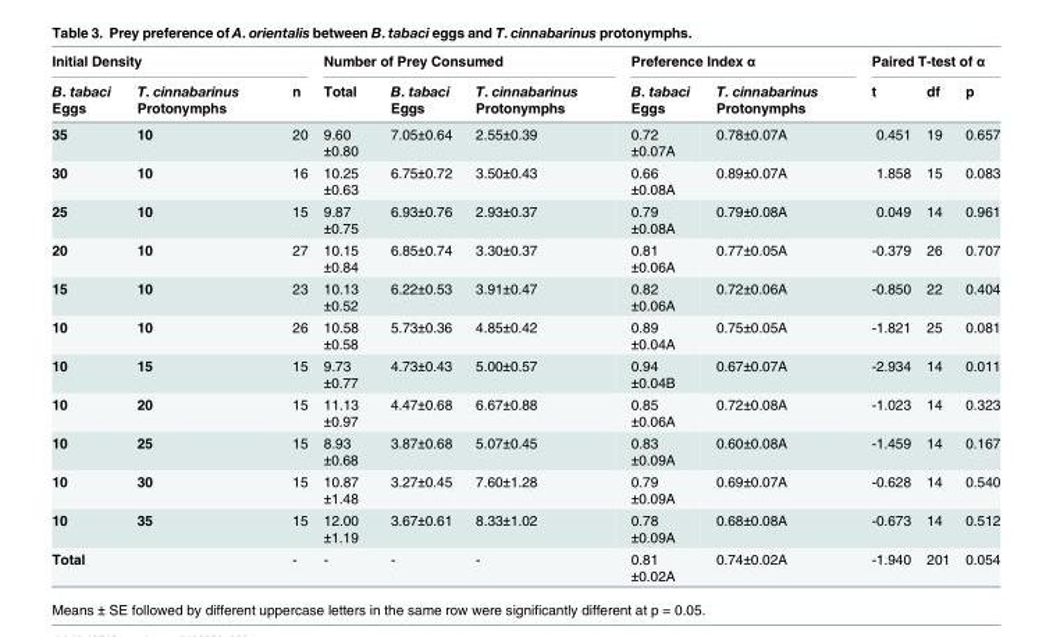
<table><thead><tr><td colspan="3">Initial Density</td><td colspan="3">Number of Prey Consumed</td><td colspan="2">Preference Index α</td><td colspan="3">Paired T-test of α</td></tr><tr><td>B. tabaci Eggs</td><td>T. cinnabarinus Protonymphs</td><td>n</td><td>Total</td><td>B. tabaci Eggs</td><td>T. cinnabarinus Protonymphs</td><td>B. tabaci Eggs</td><td>T. cinnabarinus Protonymphs</td><td>t</td><td>df</td><td>p</td></tr></thead><tbody><tr><td>35</td><td>10</td><td>20</td><td>9.60 ±0.80</td><td>7.05±0.64</td><td>2.55±0.39</td><td>0.72 ±0.07A</td><td>0.78±0.07A</td><td>0.451</td><td>19</td><td>0.657</td></tr><tr><td>30</td><td>10</td><td>16</td><td>10.25 ±0.63</td><td>6.75±0.72</td><td>3.50±0.43</td><td>0.66 ±0.08A</td><td>0.89±0.07A</td><td>1.858</td><td>15</td><td>0.083</td></tr><tr><td>25</td><td>10</td><td>15</td><td>9.87 ±0.75</td><td>6.93±0.76</td><td>2.93±0.37</td><td>0.79 ±0.08A</td><td>0.79±0.08A</td><td>0.049</td><td>14</td><td>0.961</td></tr><tr><td>20</td><td>10</td><td>27</td><td>10.15 ±0.84</td><td>6.85±0.74</td><td>3.30±0.37</td><td>0.81 ±0.06A</td><td>0.77±0.05A</td><td>-0.379</td><td>26</td><td>0.707</td></tr><tr><td>15</td><td>10</td><td>23</td><td>10.13 ±0.52</td><td>6.22±0.53</td><td>3.91±0.47</td><td>0.82 ±0.06A</td><td>0.72±0.06A</td><td>-0.850</td><td>22</td><td>0.404</td></tr><tr><td>10</td><td>10</td><td>26</td><td>10.58 ±0.58</td><td>5.73±0.36</td><td>4.85±0.42</td><td>0.89 ±0.04A</td><td>0.75±0.05A</td><td>-1.821</td><td>25</td><td>0.081</td></tr><tr><td>10</td><td>15</td><td>15</td><td>9.73 ±0.77</td><td>4.73±0.43</td><td>5.00±0.57</td><td>0.94 ±0.04B</td><td>0.67±0.07A</td><td>-2.934</td><td>14</td><td>0.011</td></tr><tr><td>10</td><td>20</td><td>15</td><td>11.13 ±0.97</td><td>4.47±0.68</td><td>6.67±0.88</td><td>0.85 ±0.06A</td><td>0.72±0.08A</td><td>-1.023</td><td>14</td><td>0.323</td></tr><tr><td>10</td><td>25</td><td>15</td><td>8.93 ±0.68</td><td>3.87±0.68</td><td>5.07±0.45</td><td>0.83 ±0.09A</td><td>0.60±0.08A</td><td>-1.459</td><td>14</td><td>0.167</td></tr><tr><td>10</td><td>30</td><td>15</td><td>10.87 ±1.48</td><td>3.27±0.45</td><td>7.60±1.28</td><td>0.79 ±0.09A</td><td>0.69±0.07A</td><td>-0.628</td><td>14</td><td>0.540</td></tr><tr><td>10</td><td>35</td><td>15</td><td>12.00 ±1.19</td><td>3.67±0.61</td><td>8.33±1.02</td><td>0.78 ±0.09A</td><td>0.68±0.08A</td><td>-0.673</td><td>14</td><td>0.512</td></tr><tr><td colspan="2">Total</td><td>-</td><td>-</td><td>-</td><td>-</td><td>0.81 ±0.02A</td><td>0.74±0.02A</td><td>-1.940</td><td>201</td><td>0.054</td></tr></tbody></table>